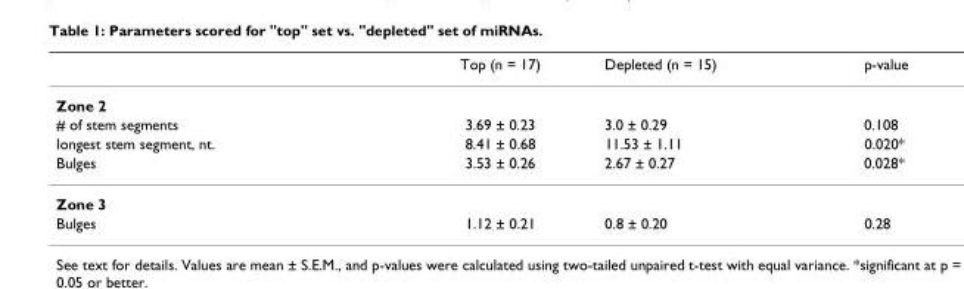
<table><thead><tr><td></td><td>Top (n = 17)</td><td>Depleted (n = 15)</td><td>p-value</td></tr></thead><tbody><tr><td colspan="4">Zone 2</td></tr><tr><td># of stem segments</td><td>3.69 ± 0.23</td><td>3.0 ± 0.29</td><td>0.108</td></tr><tr><td>longest stem segment, nt.</td><td>8.41 ± 0.68</td><td>11.53 ± 1.11</td><td>0.020*</td></tr><tr><td>Bulges</td><td>3.53 ± 0.26</td><td>2.67 ± 0.27</td><td>0.028*</td></tr><tr><td colspan="4">Zone 3</td></tr><tr><td>Bulges</td><td>1.12 ± 0.21</td><td>0.8 ± 0.20</td><td>0.28</td></tr></tbody></table>